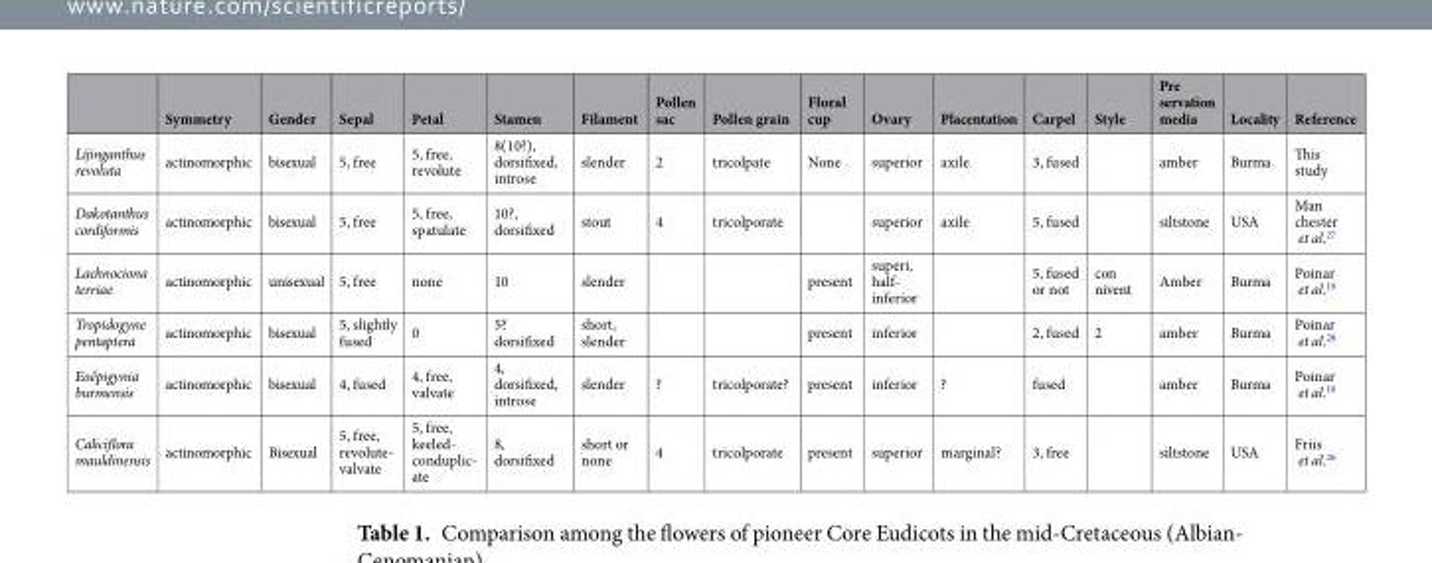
<table><thead><tr><td></td><td>Symmetry</td><td>Gender</td><td>Sepal</td><td>Petal</td><td>Stamen</td><td>Filament</td><td>Pollen sac</td><td>Pollen grain</td><td>Floral cup</td><td>Ovary</td><td>Placentation</td><td>Carpel</td><td>Style</td><td>Pre servation media</td><td>Locality</td><td>Reference</td></tr></thead><tbody><tr><td>Lijinganthus revoluta</td><td>actinomorphic</td><td>bisexual</td><td>5, free</td><td>5, free, revolute</td><td>8(10?), dorsifixed, introse</td><td>slender</td><td>2</td><td>tricolpate</td><td>None</td><td>superior</td><td>axile</td><td>3, fused</td><td></td><td>amber</td><td>Burma</td><td>This study</td></tr><tr><td>Dakotanthus cordiformis</td><td>actinomorphic</td><td>bisexual</td><td>5, free</td><td>5, free, spatulate</td><td>10?, dorsifixed</td><td>stout</td><td>4</td><td>tricolporate</td><td></td><td>superior</td><td>axile</td><td>5, fused</td><td></td><td>siltstone</td><td>USA</td><td>Man chester et al.<sup>27</sup></td></tr><tr><td>Lachnociona terriae</td><td>actinomorphic</td><td>unisexual</td><td>5, free</td><td>none</td><td>10</td><td>slender</td><td></td><td></td><td>present</td><td>superi, half- inferior</td><td></td><td>5, fused or not</td><td>con nivent</td><td>Amber</td><td>Burma</td><td>Poinar et al.<sup>19</sup></td></tr><tr><td>Tropidogyne pentaptera</td><td>actinomorphic</td><td>bisexual</td><td>5, slightly fused</td><td>0</td><td>5? dorsifixed</td><td>short, slender</td><td></td><td></td><td>present</td><td>inferior</td><td></td><td>2, fused</td><td>2</td><td>amber</td><td>Burma</td><td>Poinar et al.<sup>28</sup></td></tr><tr><td>Eoȅpigynia burmensis</td><td>actinomorphic</td><td>bisexual</td><td>4, fused</td><td>4, free, valvate</td><td>4, dorsifixed, introse</td><td>slender</td><td>?</td><td>tricolporate?</td><td>present</td><td>inferior</td><td>?</td><td>fused</td><td></td><td>amber</td><td>Burma</td><td>Poinar et al.<sup>18</sup></td></tr><tr><td>Caliciflora mauldinensis</td><td>actinomorphic</td><td>Bisexual</td><td>5, free, revolute- valvate</td><td>5, free, keeled- conduplic- ate</td><td>8, dorsifixed</td><td>short or none</td><td>4</td><td>tricolporate</td><td>present</td><td>superior</td><td>marginal?</td><td>3, free</td><td></td><td>siltstone</td><td>USA</td><td>Friis et al.<sup>26</sup></td></tr></tbody></table>